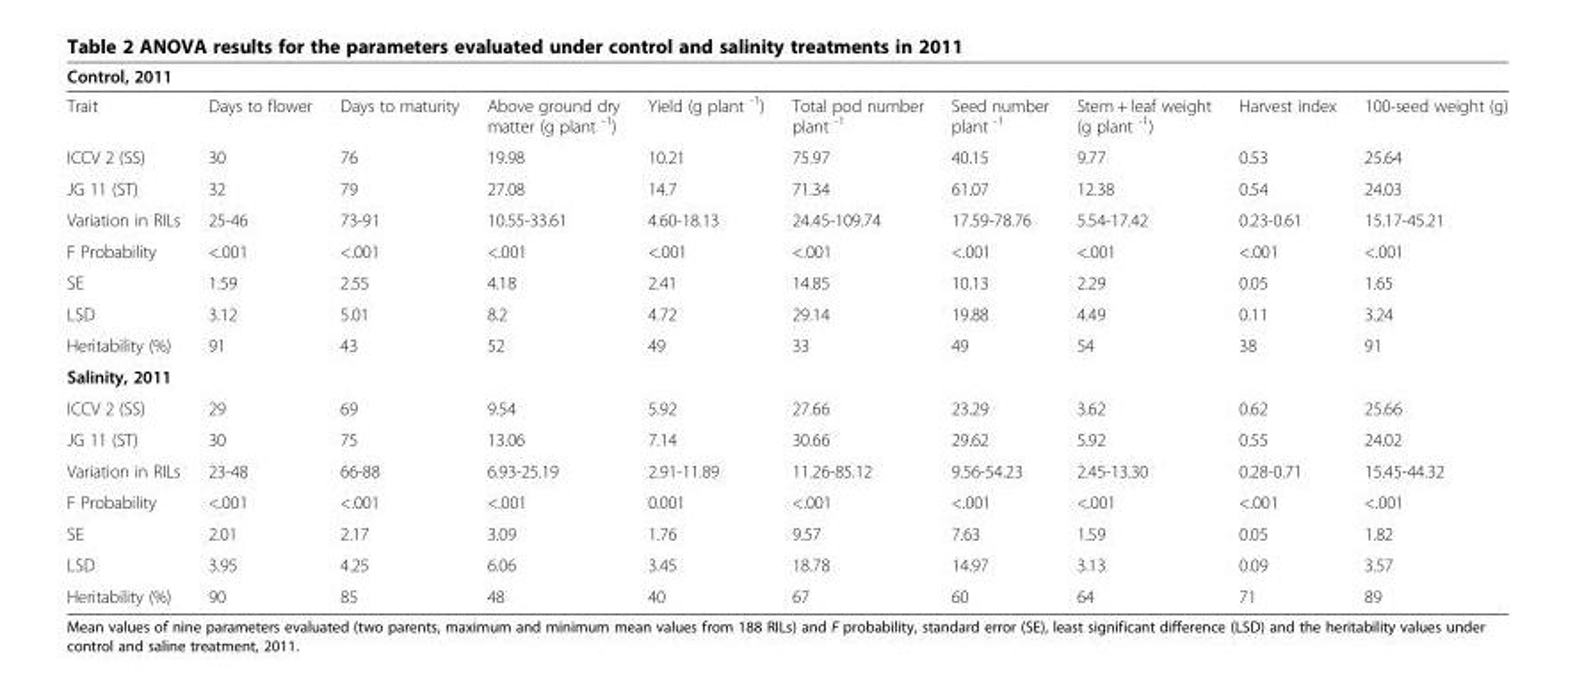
<table><thead><tr><td colspan="10">Control, 2011</td></tr><tr><td>Trait</td><td>Days to flower</td><td>Days to maturity</td><td>Above ground dry matter (g plant <sup>-1</sup>)</td><td>Yield (g plant <sup>-1</sup>)</td><td>Total pod number plant <sup>-1</sup></td><td>Seed number plant <sup>-1</sup></td><td>Stem + leaf weight (g plant <sup>-1</sup>)</td><td>Harvest index</td><td>100-seed weight (g)</td></tr></thead><tbody><tr><td>ICCV 2 (SS)</td><td>30</td><td>76</td><td>19.98</td><td>10.21</td><td>75.97</td><td>40.15</td><td>9.77</td><td>0.53</td><td>25.64</td></tr><tr><td>JG 11 (ST)</td><td>32</td><td>79</td><td>27.08</td><td>14.7</td><td>71.34</td><td>61.07</td><td>12.38</td><td>0.54</td><td>24.03</td></tr><tr><td>Variation in RILs</td><td>25-46</td><td>73-91</td><td>10.55-33.61</td><td>4.60-18.13</td><td>24.45-109.74</td><td>17.59-78.76</td><td>5.54-17.42</td><td>0.23-0.61</td><td>15.17-45.21</td></tr><tr><td>F Probability</td><td>&lt;.001</td><td>&lt;.001</td><td>&lt;.001</td><td>&lt;.001</td><td>&lt;.001</td><td>&lt;.001</td><td>&lt;.001</td><td>&lt;.001</td><td>&lt;.001</td></tr><tr><td>SE</td><td>1.59</td><td>2.55</td><td>4.18</td><td>2.41</td><td>14.85</td><td>10.13</td><td>2.29</td><td>0.05</td><td>1.65</td></tr><tr><td>LSD</td><td>3.12</td><td>5.01</td><td>8.2</td><td>4.72</td><td>29.14</td><td>19.88</td><td>4.49</td><td>0.11</td><td>3.24</td></tr><tr><td>Heritability (%)</td><td>91</td><td>43</td><td>52</td><td>49</td><td>33</td><td>49</td><td>54</td><td>38</td><td>91</td></tr><tr><td colspan="10">Salinity, 2011</td></tr><tr><td>ICCV 2 (SS)</td><td>29</td><td>69</td><td>9.54</td><td>5.92</td><td>27.66</td><td>23.29</td><td>3.62</td><td>0.62</td><td>25.66</td></tr><tr><td>JG 11 (ST)</td><td>30</td><td>75</td><td>13.06</td><td>7.14</td><td>30.66</td><td>29.62</td><td>5.92</td><td>0.55</td><td>24.02</td></tr><tr><td>Variation in RILs</td><td>23-48</td><td>66-88</td><td>6.93-25.19</td><td>2.91-11.89</td><td>11.26-85.12</td><td>9.56-54.23</td><td>2.45-13.30</td><td>0.28-0.71</td><td>15.45-44.32</td></tr><tr><td>F Probability</td><td>&lt;.001</td><td>&lt;.001</td><td>&lt;.001</td><td>0.001</td><td>&lt;.001</td><td>&lt;.001</td><td>&lt;.001</td><td>&lt;.001</td><td>&lt;.001</td></tr><tr><td>SE</td><td>2.01</td><td>2.17</td><td>3.09</td><td>1.76</td><td>9.57</td><td>7.63</td><td>1.59</td><td>0.05</td><td>1.82</td></tr><tr><td>LSD</td><td>3.95</td><td>4.25</td><td>6.06</td><td>3.45</td><td>18.78</td><td>14.97</td><td>3.13</td><td>0.09</td><td>3.57</td></tr><tr><td>Heritability (%)</td><td>90</td><td>85</td><td>48</td><td>40</td><td>67</td><td>60</td><td>64</td><td>71</td><td>89</td></tr></tbody></table>